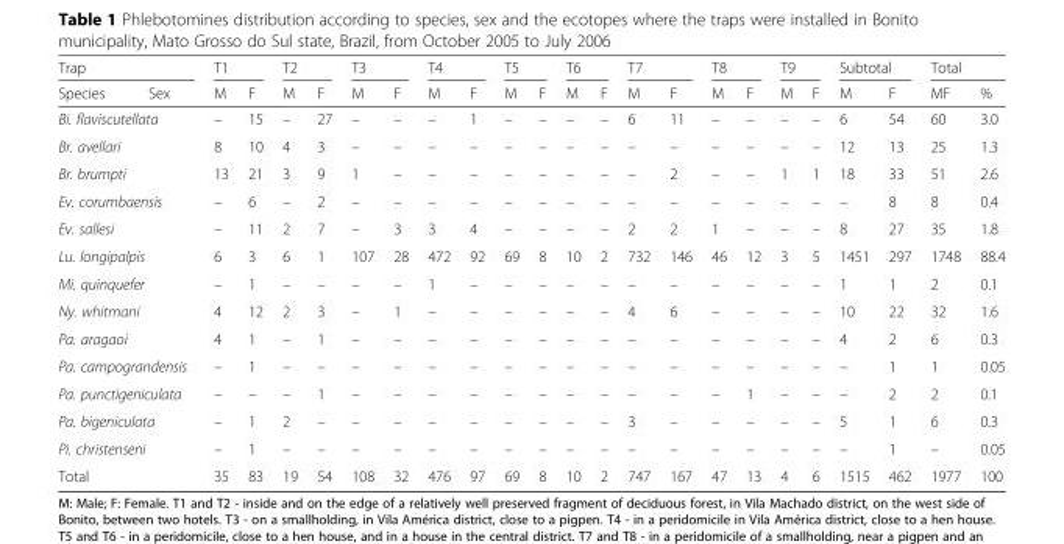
<table><thead><tr><td colspan="2">Trap</td><td colspan="2">T1</td><td colspan="2">T2</td><td colspan="2">T3</td><td colspan="2">T4</td><td colspan="2">T5</td><td colspan="2">T6</td><td colspan="2">T7</td><td colspan="2">T8</td><td colspan="2">T9</td><td colspan="2">Subtotal</td><td colspan="2">Total</td></tr><tr><td>Species</td><td>Sex</td><td>M</td><td>F</td><td>M</td><td>F</td><td>M</td><td>F</td><td>M</td><td>F</td><td>M</td><td>F</td><td>M</td><td>F</td><td>M</td><td>F</td><td>M</td><td>F</td><td>M</td><td>F</td><td>M</td><td>F</td><td>MF</td><td>%</td></tr></thead><tbody><tr><td colspan="2">Bi. flaviscutellata</td><td>–</td><td>15</td><td>–</td><td>27</td><td>–</td><td>–</td><td>–</td><td>1</td><td>–</td><td>–</td><td>–</td><td>–</td><td>6</td><td>11</td><td>–</td><td>–</td><td>–</td><td>–</td><td>6</td><td>54</td><td>60</td><td>3.0</td></tr><tr><td colspan="2">Br. avellari</td><td>8</td><td>10</td><td>4</td><td>3</td><td>–</td><td>–</td><td>–</td><td>–</td><td>–</td><td>–</td><td>–</td><td>–</td><td>–</td><td>–</td><td>–</td><td>–</td><td>–</td><td>–</td><td>12</td><td>13</td><td>25</td><td>1.3</td></tr><tr><td colspan="2">Br. brumpti</td><td>13</td><td>21</td><td>3</td><td>9</td><td>1</td><td>–</td><td>–</td><td>–</td><td>–</td><td>–</td><td>–</td><td>–</td><td>–</td><td>2</td><td>–</td><td>–</td><td>1</td><td>1</td><td>18</td><td>33</td><td>51</td><td>2.6</td></tr><tr><td colspan="2">Ev. corumbaensis</td><td>–</td><td>6</td><td>–</td><td>2</td><td>–</td><td>–</td><td>–</td><td>–</td><td>–</td><td>–</td><td>–</td><td>–</td><td>–</td><td>–</td><td>–</td><td>–</td><td>–</td><td>–</td><td>–</td><td>8</td><td>8</td><td>0.4</td></tr><tr><td colspan="2">Ev. sallesi</td><td>–</td><td>11</td><td>2</td><td>7</td><td>–</td><td>3</td><td>3</td><td>4</td><td>–</td><td>–</td><td>–</td><td>–</td><td>2</td><td>2</td><td>1</td><td>–</td><td>–</td><td>–</td><td>8</td><td>27</td><td>35</td><td>1.8</td></tr><tr><td colspan="2">Lu. longipalpis</td><td>6</td><td>3</td><td>6</td><td>1</td><td>107</td><td>28</td><td>472</td><td>92</td><td>69</td><td>8</td><td>10</td><td>2</td><td>732</td><td>146</td><td>46</td><td>12</td><td>3</td><td>5</td><td>1451</td><td>297</td><td>1748</td><td>88.4</td></tr><tr><td colspan="2">Mi. quinquefer</td><td>–</td><td>1</td><td>–</td><td>–</td><td>–</td><td>–</td><td>1</td><td>–</td><td>–</td><td>–</td><td>–</td><td>–</td><td>–</td><td>–</td><td>–</td><td>–</td><td>–</td><td>–</td><td>1</td><td>1</td><td>2</td><td>0.1</td></tr><tr><td colspan="2">Ny. whitmani</td><td>4</td><td>12</td><td>2</td><td>3</td><td>–</td><td>1</td><td>–</td><td>–</td><td>–</td><td>–</td><td>–</td><td>–</td><td>4</td><td>6</td><td>–</td><td>–</td><td>–</td><td>–</td><td>10</td><td>22</td><td>32</td><td>1.6</td></tr><tr><td colspan="2">Pa. aragaoi</td><td>4</td><td>1</td><td>–</td><td>1</td><td>–</td><td>–</td><td>–</td><td>–</td><td>–</td><td>–</td><td>–</td><td>–</td><td>–</td><td>–</td><td>–</td><td>–</td><td>–</td><td>–</td><td>4</td><td>2</td><td>6</td><td>0.3</td></tr><tr><td colspan="2">Pa. campograndensis</td><td>–</td><td>1</td><td>–</td><td>–</td><td>–</td><td>–</td><td>–</td><td>–</td><td>–</td><td>–</td><td>–</td><td>–</td><td>–</td><td>–</td><td>–</td><td>–</td><td>–</td><td>–</td><td>–</td><td>1</td><td>1</td><td>0.05</td></tr><tr><td colspan="2">Pa. punctigeniculata</td><td>–</td><td>–</td><td>–</td><td>1</td><td>–</td><td>–</td><td>–</td><td>–</td><td>–</td><td>–</td><td>–</td><td>–</td><td>–</td><td>–</td><td>–</td><td>1</td><td>–</td><td>–</td><td>–</td><td>2</td><td>2</td><td>0.1</td></tr><tr><td colspan="2">Pa. bigeniculata</td><td>–</td><td>1</td><td>2</td><td>–</td><td>–</td><td>–</td><td>–</td><td>–</td><td>–</td><td>–</td><td>–</td><td>–</td><td>3</td><td>–</td><td>–</td><td>–</td><td>–</td><td>–</td><td>5</td><td>1</td><td>6</td><td>0.3</td></tr><tr><td colspan="2">Pi. christenseni</td><td>–</td><td>1</td><td>–</td><td>–</td><td>–</td><td>–</td><td>–</td><td>–</td><td>–</td><td>–</td><td>–</td><td>–</td><td>–</td><td>–</td><td>–</td><td>–</td><td>–</td><td>–</td><td>–</td><td>1</td><td>–</td><td>0.05</td></tr><tr><td colspan="2">Total</td><td>35</td><td>83</td><td>19</td><td>54</td><td>108</td><td>32</td><td>476</td><td>97</td><td>69</td><td>8</td><td>10</td><td>2</td><td>747</td><td>167</td><td>47</td><td>13</td><td>4</td><td>6</td><td>1515</td><td>462</td><td>1977</td><td>100</td></tr></tbody></table>